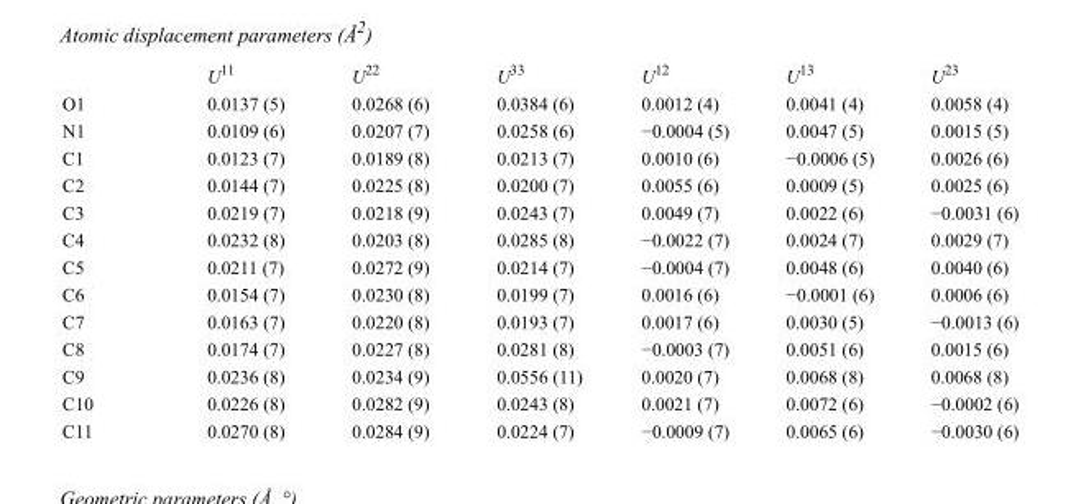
<table><thead><tr><td></td><td>U<sup>11</sup></td><td>U<sup>22</sup></td><td>U<sup>33</sup></td><td>U<sup>12</sup></td><td>U<sup>13</sup></td><td>U<sup>23</sup></td></tr></thead><tbody><tr><td>O1</td><td>0.0137 (5)</td><td>0.0268 (6)</td><td>0.0384 (6)</td><td>0.0012 (4)</td><td>0.0041 (4)</td><td>0.0058 (4)</td></tr><tr><td>N1</td><td>0.0109 (6)</td><td>0.0207 (7)</td><td>0.0258 (6)</td><td>−0.0004 (5)</td><td>0.0047 (5)</td><td>0.0015 (5)</td></tr><tr><td>C1</td><td>0.0123 (7)</td><td>0.0189 (8)</td><td>0.0213 (7)</td><td>0.0010 (6)</td><td>−0.0006 (5)</td><td>0.0026 (6)</td></tr><tr><td>C2</td><td>0.0144 (7)</td><td>0.0225 (8)</td><td>0.0200 (7)</td><td>0.0055 (6)</td><td>0.0009 (5)</td><td>0.0025 (6)</td></tr><tr><td>C3</td><td>0.0219 (7)</td><td>0.0218 (9)</td><td>0.0243 (7)</td><td>0.0049 (7)</td><td>0.0022 (6)</td><td>−0.0031 (6)</td></tr><tr><td>C4</td><td>0.0232 (8)</td><td>0.0203 (8)</td><td>0.0285 (8)</td><td>−0.0022 (7)</td><td>0.0024 (7)</td><td>0.0029 (7)</td></tr><tr><td>C5</td><td>0.0211 (7)</td><td>0.0272 (9)</td><td>0.0214 (7)</td><td>−0.0004 (7)</td><td>0.0048 (6)</td><td>0.0040 (6)</td></tr><tr><td>C6</td><td>0.0154 (7)</td><td>0.0230 (8)</td><td>0.0199 (7)</td><td>0.0016 (6)</td><td>−0.0001 (6)</td><td>0.0006 (6)</td></tr><tr><td>C7</td><td>0.0163 (7)</td><td>0.0220 (8)</td><td>0.0193 (7)</td><td>0.0017 (6)</td><td>0.0030 (5)</td><td>−0.0013 (6)</td></tr><tr><td>C8</td><td>0.0174 (7)</td><td>0.0227 (8)</td><td>0.0281 (8)</td><td>−0.0003 (7)</td><td>0.0051 (6)</td><td>0.0015 (6)</td></tr><tr><td>C9</td><td>0.0236 (8)</td><td>0.0234 (9)</td><td>0.0556 (11)</td><td>0.0020 (7)</td><td>0.0068 (8)</td><td>0.0068 (8)</td></tr><tr><td>C10</td><td>0.0226 (8)</td><td>0.0282 (9)</td><td>0.0243 (8)</td><td>0.0021 (7)</td><td>0.0072 (6)</td><td>−0.0002 (6)</td></tr><tr><td>C11</td><td>0.0270 (8)</td><td>0.0284 (9)</td><td>0.0224 (7)</td><td>−0.0009 (7)</td><td>0.0065 (6)</td><td>−0.0030 (6)</td></tr></tbody></table>